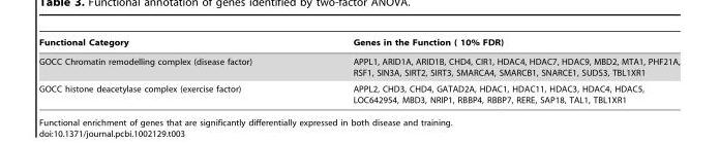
<table><thead><tr><td>Functional Category</td><td>Genes in the Function ( 10% FDR)</td></tr></thead><tbody><tr><td>GOCC Chromatin remodelling complex (disease factor)</td><td>APPL1, ARID1A, ARID1B, CHD4, CIR1, HDAC4, HDAC7, HDAC9, MBD2, MTA1, PHF21A, RSF1, SIN3A, SIRT2, SIRT3, SMARCA4, SMARCB1, SNARCE1, SUDS3, TBL1XR1</td></tr><tr><td>GOCC histone deacetylase complex (exercise factor)</td><td>APPL2, CHD3, CHD4, GATAD2A, HDAC1, HDAC11, HDAC3, HDAC4, HDAC5, LOC642954, MBD3, NRIP1, RBBP4, RBBP7, RERE, SAP18, TAL1, TBL1XR1</td></tr></tbody></table>